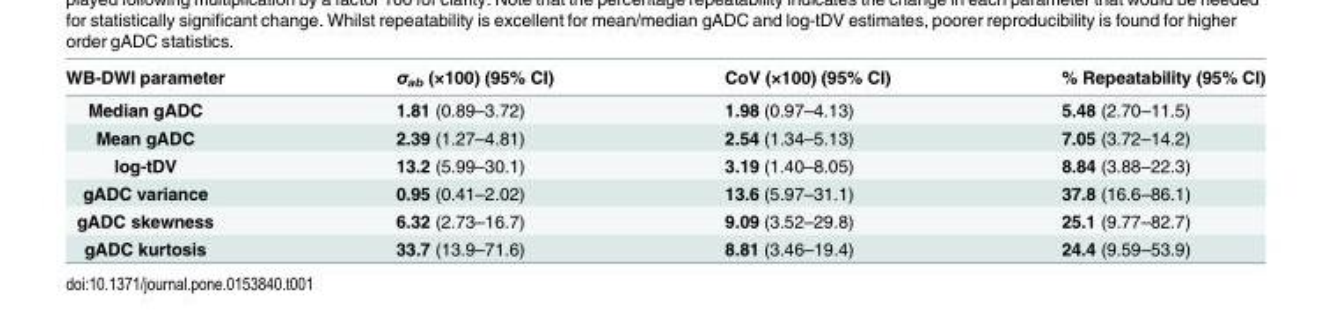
<table><thead><tr><td>WB-DWI parameter</td><td>σ<sub>ab</sub> (×100) (95% CI)</td><td>CoV (×100) (95% CI)</td><td>% Repeatability (95% CI)</td></tr></thead><tbody><tr><td>Median gADC</td><td>1.81 (0.89–3.72)</td><td>1.98 (0.97–4.13)</td><td>5.48 (2.70–11.5)</td></tr><tr><td>Mean gADC</td><td>2.39 (1.27–4.81)</td><td>2.54 (1.34–5.13)</td><td>7.05 (3.72–14.2)</td></tr><tr><td>log-tDV</td><td>13.2 (5.99–30.1)</td><td>3.19 (1.40–8.05)</td><td>8.84 (3.88–22.3)</td></tr><tr><td>gADC variance</td><td>0.95 (0.41–2.02)</td><td>13.6 (5.97–31.1)</td><td>37.8 (16.6–86.1)</td></tr><tr><td>gADC skewness</td><td>6.32 (2.73–16.7)</td><td>9.09 (3.52–29.8)</td><td>25.1 (9.77–82.7)</td></tr><tr><td>gADC kurtosis</td><td>33.7 (13.9–71.6)</td><td>8.81 (3.46–19.4)</td><td>24.4 (9.59–53.9)</td></tr></tbody></table>